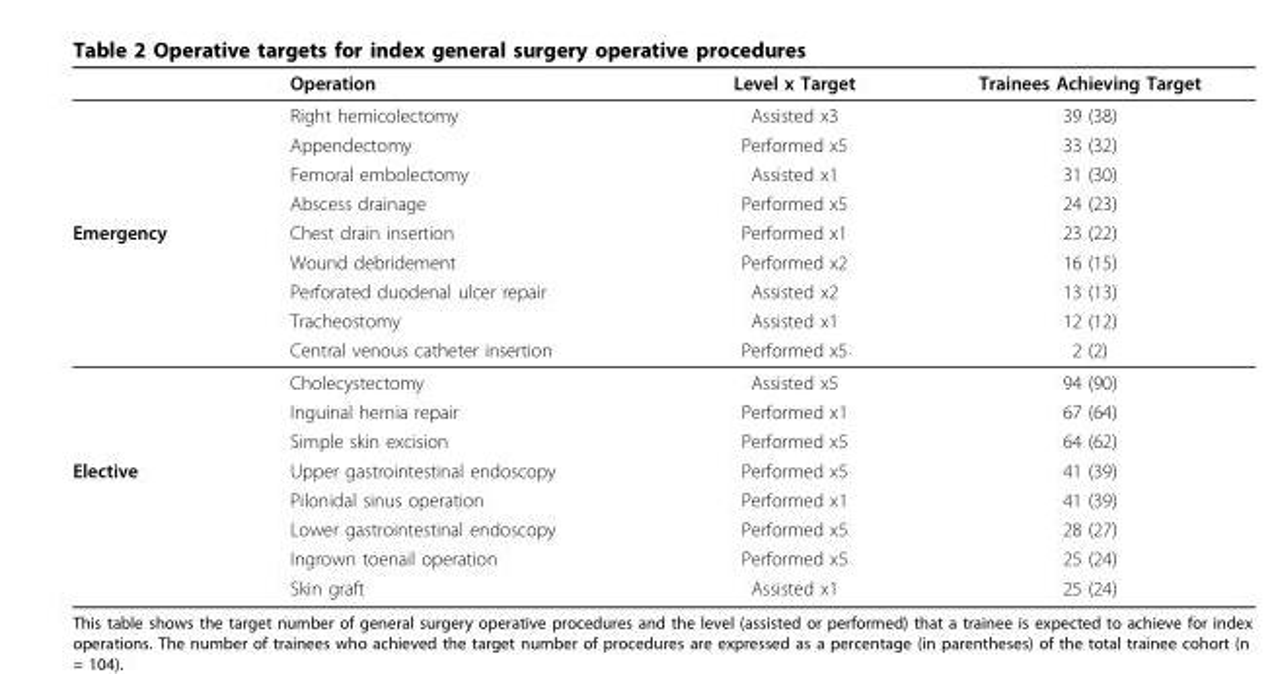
<table><thead><tr><td></td><td>Operation</td><td>Level x Target</td><td>Trainees Achieving Target</td></tr></thead><tbody><tr><td></td><td>Right hemicolectomy</td><td>Assisted x3</td><td>39 (38)</td></tr><tr><td></td><td>Appendectomy</td><td>Performed x5</td><td>33 (32)</td></tr><tr><td></td><td>Femoral embolectomy</td><td>Assisted x1</td><td>31 (30)</td></tr><tr><td></td><td>Abscess drainage</td><td>Performed x5</td><td>24 (23)</td></tr><tr><td rowspan="8">Emergency</td><td>Chest drain insertion</td><td>Performed x1</td><td>23 (22)</td></tr><tr><td>Wound debridement</td><td>Performed x2</td><td>16 (15)</td></tr><tr><td>Perforated duodenal ulcer repair</td><td>Assisted x2</td><td>13 (13)</td></tr><tr><td>Tracheostomy</td><td>Assisted x1</td><td>12 (12)</td></tr><tr><td>Central venous catheter insertion</td><td>Performed x5</td><td>2 (2)</td></tr><tr><td>Cholecystectomy</td><td>Assisted x5</td><td>94 (90)</td></tr><tr><td>Inguinal hernia repair</td><td>Performed x1</td><td>67 (64)</td></tr><tr><td>Simple skin excision</td><td>Performed x5</td><td>64 (62)</td></tr><tr><td rowspan="5">Elective</td><td>Upper gastrointestinal endoscopy</td><td>Performed x5</td><td>41 (39)</td></tr><tr><td>Pilonidal sinus operation</td><td>Performed x1</td><td>41 (39)</td></tr><tr><td>Lower gastrointestinal endoscopy</td><td>Performed x5</td><td>28 (27)</td></tr><tr><td>Ingrown toenail operation</td><td>Performed x5</td><td>25 (24)</td></tr><tr><td>Skin graft</td><td>Assisted x1</td><td>25 (24)</td></tr></tbody></table>